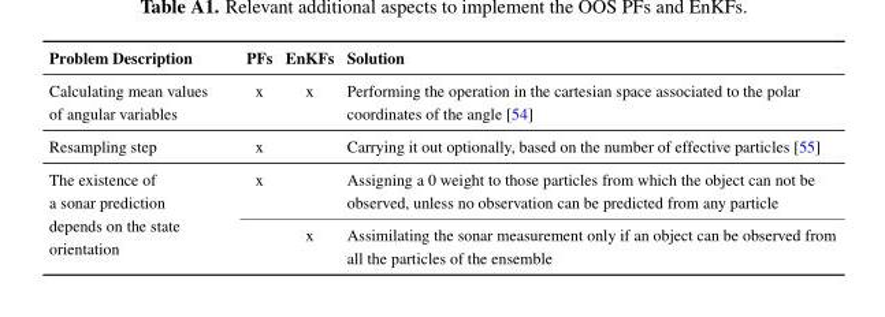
<table><thead><tr><td>Problem Description</td><td>PFs</td><td>EnKFs</td><td>Solution</td></tr></thead><tbody><tr><td>Calculating mean values of angular variables</td><td>x</td><td>x</td><td>Performing the operation in the cartesian space associated to the polar coordinates of the angle [54]</td></tr><tr><td>Resampling step</td><td>x</td><td></td><td>Carrying it out optionally, based on the number of effective particles [55]</td></tr><tr><td rowspan="2">The existence of a sonar prediction depends on the state orientation</td><td>x</td><td></td><td>Assigning a 0 weight to those particles from which the object can not be observed, unless no observation can be predicted from any particle</td></tr><tr><td></td><td>x</td><td>Assimilating the sonar measurement only if an object can be observed from all the particles of the ensemble</td></tr></tbody></table>